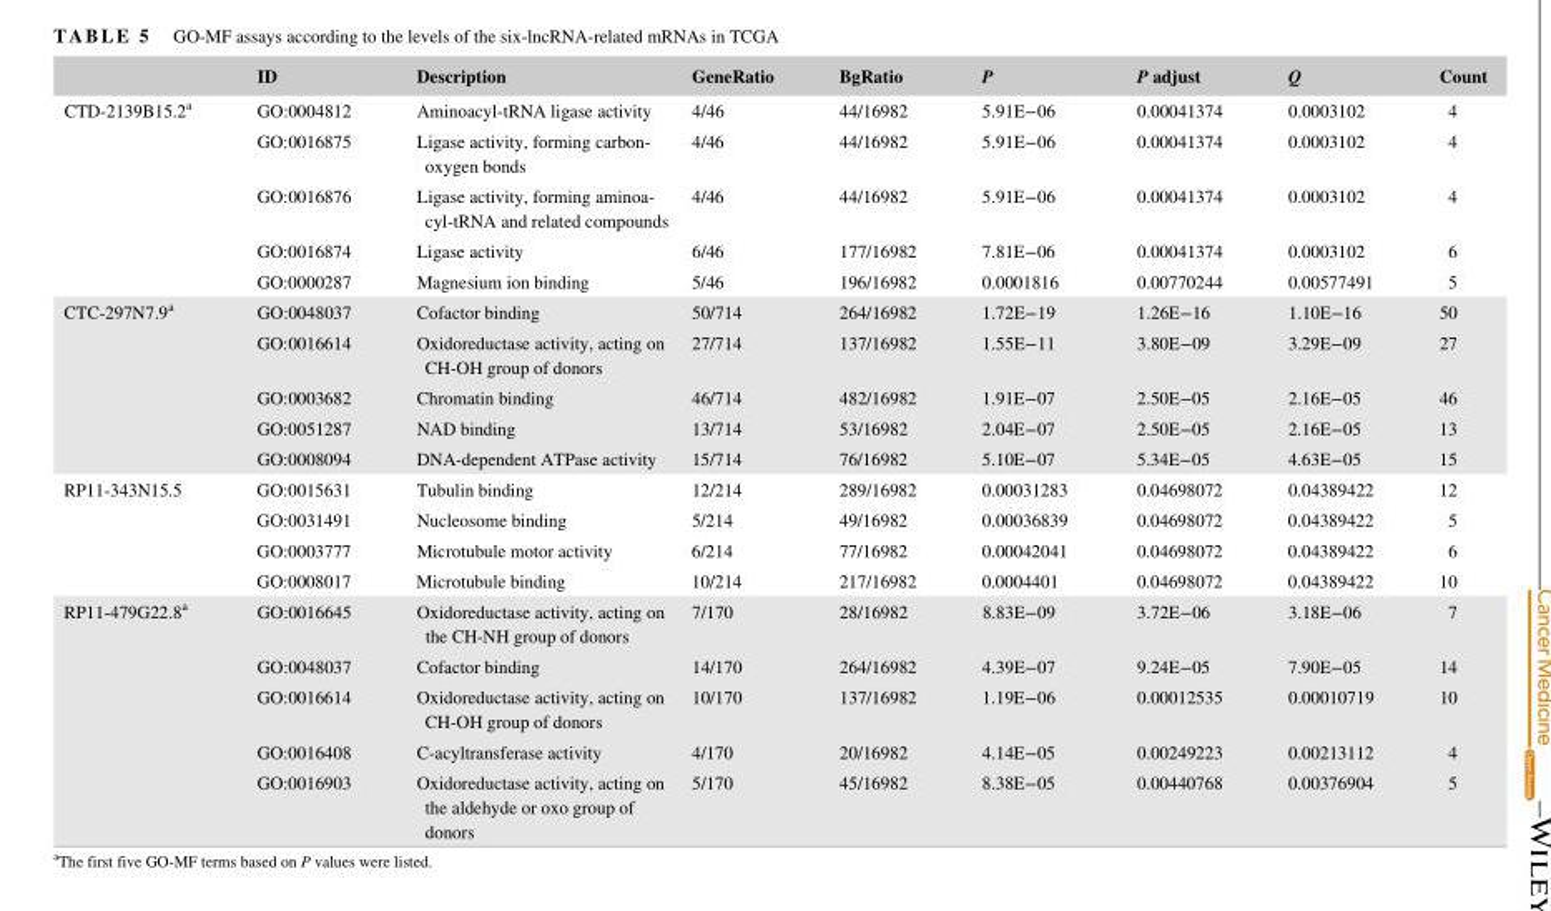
<table><thead><tr><td></td><td>ID</td><td>Description</td><td>GeneRatio</td><td>BgRatio</td><td>P</td><td>P adjust</td><td>Q</td><td>Count</td></tr></thead><tbody><tr><td rowspan="5">CTD‐2139B15.2<sup>a</sup></td><td>GO:0004812</td><td>Aminoacyl‐tRNA ligase activity</td><td>4/46</td><td>44/16982</td><td>5.91E−06</td><td>0.00041374</td><td>0.0003102</td><td>4</td></tr><tr><td>GO:0016875</td><td>Ligase activity, forming carbon‐ oxygen bonds</td><td>4/46</td><td>44/16982</td><td>5.91E−06</td><td>0.00041374</td><td>0.0003102</td><td>4</td></tr><tr><td>GO:0016876</td><td>Ligase activity, forming aminoa- cyl‐tRNA and related compounds</td><td>4/46</td><td>44/16982</td><td>5.91E−06</td><td>0.00041374</td><td>0.0003102</td><td>4</td></tr><tr><td>GO:0016874</td><td>Ligase activity</td><td>6/46</td><td>177/16982</td><td>7.81E−06</td><td>0.00041374</td><td>0.0003102</td><td>6</td></tr><tr><td>GO:0000287</td><td>Magnesium ion binding</td><td>5/46</td><td>196/16982</td><td>0.0001816</td><td>0.00770244</td><td>0.00577491</td><td>5</td></tr><tr><td rowspan="5">CTC‐297N7.9<sup>a</sup></td><td>GO:0048037</td><td>Cofactor binding</td><td>50/714</td><td>264/16982</td><td>1.72E−19</td><td>1.26E−16</td><td>1.10E−16</td><td>50</td></tr><tr><td>GO:0016614</td><td>Oxidoreductase activity, acting on CH‐OH group of donors</td><td>27/714</td><td>137/16982</td><td>1.55E−11</td><td>3.80E−09</td><td>3.29E−09</td><td>27</td></tr><tr><td>GO:0003682</td><td>Chromatin binding</td><td>46/714</td><td>482/16982</td><td>1.91E−07</td><td>2.50E−05</td><td>2.16E−05</td><td>46</td></tr><tr><td>GO:0051287</td><td>NAD binding</td><td>13/714</td><td>53/16982</td><td>2.04E−07</td><td>2.50E−05</td><td>2.16E−05</td><td>13</td></tr><tr><td>GO:0008094</td><td>DNA‐dependent ATPase activity</td><td>15/714</td><td>76/16982</td><td>5.10E−07</td><td>5.34E−05</td><td>4.63E−05</td><td>15</td></tr><tr><td rowspan="4">RP11‐343N15.5</td><td>GO:0015631</td><td>Tubulin binding</td><td>12/214</td><td>289/16982</td><td>0.00031283</td><td>0.04698072</td><td>0.04389422</td><td>12</td></tr><tr><td>GO:0031491</td><td>Nucleosome binding</td><td>5/214</td><td>49/16982</td><td>0.00036839</td><td>0.04698072</td><td>0.04389422</td><td>5</td></tr><tr><td>GO:0003777</td><td>Microtubule motor activity</td><td>6/214</td><td>77/16982</td><td>0.00042041</td><td>0.04698072</td><td>0.04389422</td><td>6</td></tr><tr><td>GO:0008017</td><td>Microtubule binding</td><td>10/214</td><td>217/16982</td><td>0.0004401</td><td>0.04698072</td><td>0.04389422</td><td>10</td></tr><tr><td rowspan="5">RP11‐479G22.8<sup>a</sup></td><td>GO:0016645</td><td>Oxidoreductase activity, acting on the CH‐NH group of donors</td><td>7/170</td><td>28/16982</td><td>8.83E−09</td><td>3.72E−06</td><td>3.18E−06</td><td>7</td></tr><tr><td>GO:0048037</td><td>Cofactor binding</td><td>14/170</td><td>264/16982</td><td>4.39E−07</td><td>9.24E−05</td><td>7.90E−05</td><td>14</td></tr><tr><td>GO:0016614</td><td>Oxidoreductase activity, acting on CH‐OH group of donors</td><td>10/170</td><td>137/16982</td><td>1.19E−06</td><td>0.00012535</td><td>0.00010719</td><td>10</td></tr><tr><td>GO:0016408</td><td>C‐acyltransferase activity</td><td>4/170</td><td>20/16982</td><td>4.14E−05</td><td>0.00249223</td><td>0.00213112</td><td>4</td></tr><tr><td>GO:0016903</td><td>Oxidoreductase activity, acting on the aldehyde or oxo group of donors</td><td>5/170</td><td>45/16982</td><td>8.38E−05</td><td>0.00440768</td><td>0.00376904</td><td>5</td></tr></tbody></table>